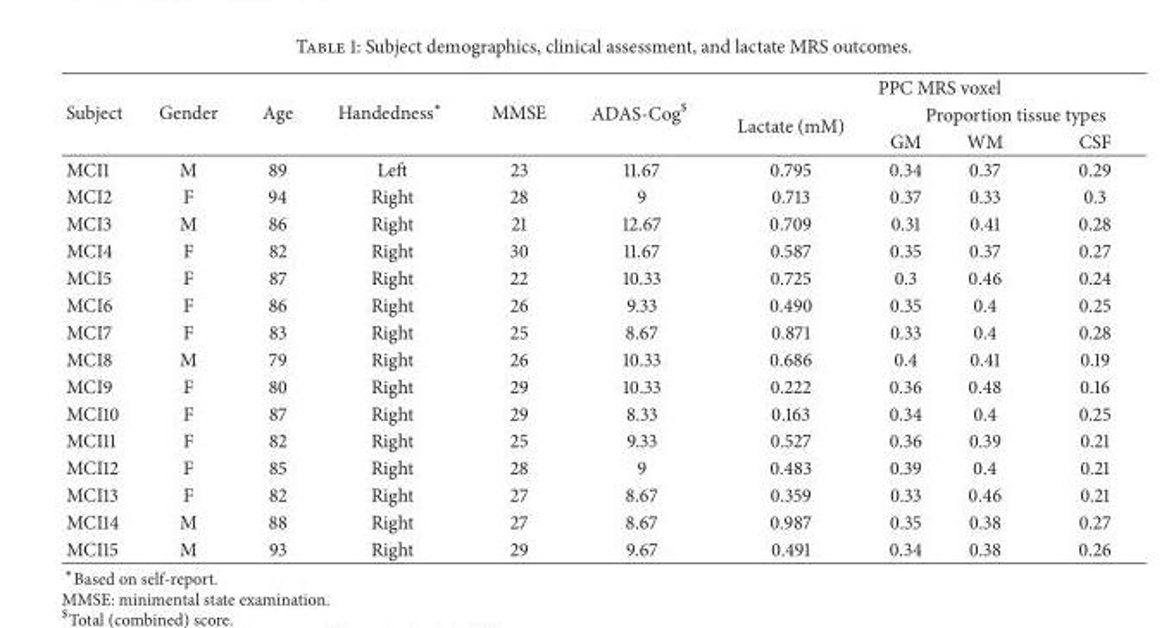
<table><thead><tr><td rowspan="3">Subject</td><td rowspan="3">Gender</td><td rowspan="3">Age</td><td rowspan="3">Handedness∗</td><td rowspan="3">MMSE</td><td rowspan="3">ADAS-Cog<sup>$</sup></td><td colspan="4">PPC MRS voxel</td></tr><tr><td rowspan="2">Lactate (mM)</td><td colspan="3">Proportion tissue types</td></tr><tr><td>GM</td><td>WM</td><td>CSF</td></tr></thead><tbody><tr><td>MCI1</td><td>M</td><td>89</td><td>Left</td><td>23</td><td>11.67</td><td>0.795</td><td>0.34</td><td>0.37</td><td>0.29</td></tr><tr><td>MCI2</td><td>F</td><td>94</td><td>Right</td><td>28</td><td>9</td><td>0.713</td><td>0.37</td><td>0.33</td><td>0.3</td></tr><tr><td>MCI3</td><td>M</td><td>86</td><td>Right</td><td>21</td><td>12.67</td><td>0.709</td><td>0.31</td><td>0.41</td><td>0.28</td></tr><tr><td>MCI4</td><td>F</td><td>82</td><td>Right</td><td>30</td><td>11.67</td><td>0.587</td><td>0.35</td><td>0.37</td><td>0.27</td></tr><tr><td>MCI5</td><td>F</td><td>87</td><td>Right</td><td>22</td><td>10.33</td><td>0.725</td><td>0.3</td><td>0.46</td><td>0.24</td></tr><tr><td>MCI6</td><td>F</td><td>86</td><td>Right</td><td>26</td><td>9.33</td><td>0.490</td><td>0.35</td><td>0.4</td><td>0.25</td></tr><tr><td>MCI7</td><td>F</td><td>83</td><td>Right</td><td>25</td><td>8.67</td><td>0.871</td><td>0.33</td><td>0.4</td><td>0.28</td></tr><tr><td>MCI8</td><td>M</td><td>79</td><td>Right</td><td>26</td><td>10.33</td><td>0.686</td><td>0.4</td><td>0.41</td><td>0.19</td></tr><tr><td>MCI9</td><td>F</td><td>80</td><td>Right</td><td>29</td><td>10.33</td><td>0.222</td><td>0.36</td><td>0.48</td><td>0.16</td></tr><tr><td>MCI10</td><td>F</td><td>87</td><td>Right</td><td>29</td><td>8.33</td><td>0.163</td><td>0.34</td><td>0.4</td><td>0.25</td></tr><tr><td>MCI11</td><td>F</td><td>82</td><td>Right</td><td>25</td><td>9.33</td><td>0.527</td><td>0.36</td><td>0.39</td><td>0.21</td></tr><tr><td>MCI12</td><td>F</td><td>85</td><td>Right</td><td>28</td><td>9</td><td>0.483</td><td>0.39</td><td>0.4</td><td>0.21</td></tr><tr><td>MCI13</td><td>F</td><td>82</td><td>Right</td><td>27</td><td>8.67</td><td>0.359</td><td>0.33</td><td>0.46</td><td>0.21</td></tr><tr><td>MCI14</td><td>M</td><td>88</td><td>Right</td><td>27</td><td>8.67</td><td>0.987</td><td>0.35</td><td>0.38</td><td>0.27</td></tr><tr><td>MCI15</td><td>M</td><td>93</td><td>Right</td><td>29</td><td>9.67</td><td>0.491</td><td>0.34</td><td>0.38</td><td>0.26</td></tr></tbody></table>